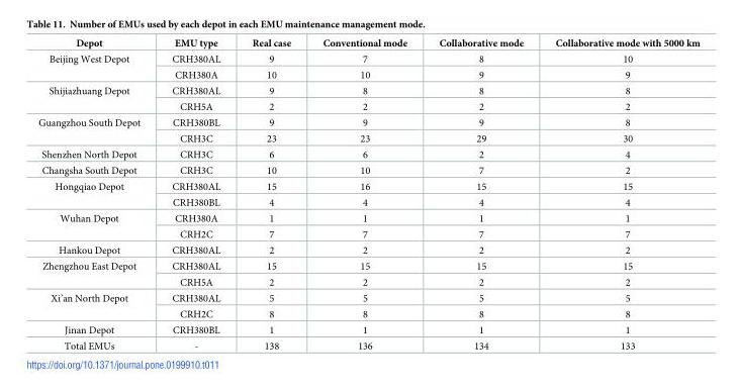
<table><thead><tr><td>Depot</td><td>EMU type</td><td>Real case</td><td>Conventional mode</td><td>Collaborative mode</td><td>Collaborative mode with 5000 km</td></tr></thead><tbody><tr><td rowspan="2">Beijing West Depot</td><td>CRH380AL</td><td>9</td><td>7</td><td>8</td><td>10</td></tr><tr><td>CRH380A</td><td>10</td><td>10</td><td>9</td><td>9</td></tr><tr><td rowspan="2">Shijiazhuang Depot</td><td>CRH380AL</td><td>9</td><td>8</td><td>8</td><td>8</td></tr><tr><td>CRH5A</td><td>2</td><td>2</td><td>2</td><td>2</td></tr><tr><td rowspan="2">Guangzhou South Depot</td><td>CRH380BL</td><td>9</td><td>9</td><td>9</td><td>8</td></tr><tr><td>CRH3C</td><td>23</td><td>23</td><td>29</td><td>30</td></tr><tr><td>Shenzhen North Depot</td><td>CRH3C</td><td>6</td><td>6</td><td>2</td><td>4</td></tr><tr><td>Changsha South Depot</td><td>CRH3C</td><td>10</td><td>10</td><td>7</td><td>2</td></tr><tr><td rowspan="2">Hongqiao Depot</td><td>CRH380AL</td><td>15</td><td>16</td><td>15</td><td>15</td></tr><tr><td>CRH380BL</td><td>4</td><td>4</td><td>4</td><td>4</td></tr><tr><td rowspan="2">Wuhan Depot</td><td>CRH380A</td><td>1</td><td>1</td><td>1</td><td>1</td></tr><tr><td>CRH2C</td><td>7</td><td>7</td><td>7</td><td>7</td></tr><tr><td>Hankou Depot</td><td>CRH380AL</td><td>2</td><td>2</td><td>2</td><td>2</td></tr><tr><td rowspan="2">Zhengzhou East Depot</td><td>CRH380AL</td><td>15</td><td>15</td><td>15</td><td>15</td></tr><tr><td>CRH5A</td><td>2</td><td>2</td><td>2</td><td>2</td></tr><tr><td rowspan="2">Xi’an North Depot</td><td>CRH380AL</td><td>5</td><td>5</td><td>5</td><td>5</td></tr><tr><td>CRH2C</td><td>8</td><td>8</td><td>8</td><td>8</td></tr><tr><td>Jinan Depot</td><td>CRH380BL</td><td>1</td><td>1</td><td>1</td><td>1</td></tr><tr><td>Total EMUs</td><td>-</td><td>138</td><td>136</td><td>134</td><td>133</td></tr></tbody></table>